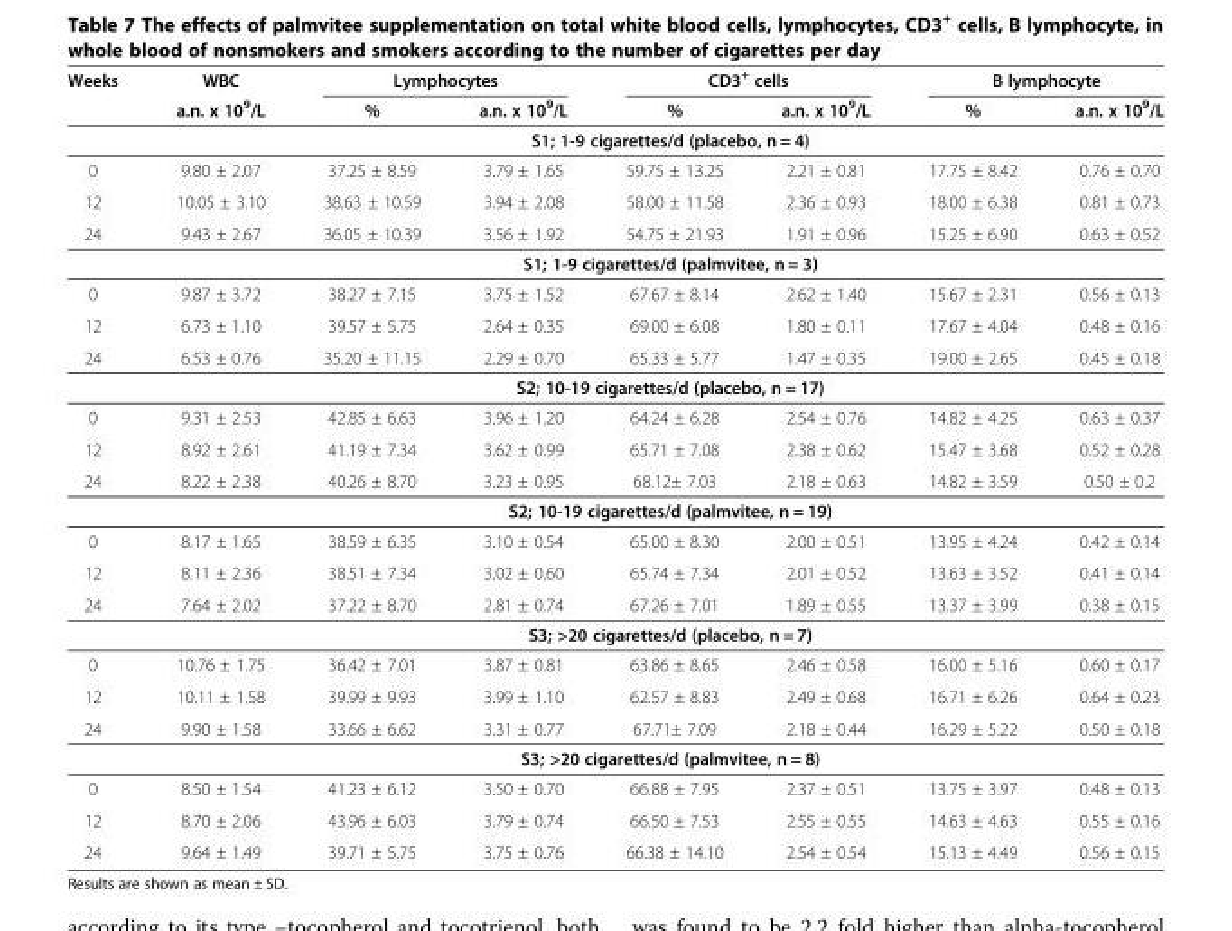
<table><thead><tr><td rowspan="2">Weeks</td><td rowspan="2">WBC a.n. x 10<sup>9</sup>/L</td><td colspan="2">Lymphocytes</td><td colspan="2">CD3<sup>+</sup> cells</td><td colspan="2">B lymphocyte</td></tr><tr><td>%</td><td>a.n. x 10<sup>9</sup>/L</td><td>%</td><td>a.n. x 10<sup>9</sup>/L</td><td>%</td><td>a.n. x 10<sup>9</sup>/L</td></tr></thead><tbody><tr><td></td><td colspan="7">S1; 1-9 cigarettes/d (placebo, n = 4)</td></tr><tr><td>0</td><td>9.80 ± 2.07</td><td>37.25 ± 8.59</td><td>3.79 ± 1.65</td><td>59.75 ± 13.25</td><td>2.21 ± 0.81</td><td>17.75 ± 8.42</td><td>0.76 ± 0.70</td></tr><tr><td>12</td><td>10.05 ± 3.10</td><td>38.63 ± 10.59</td><td>3.94 ± 2.08</td><td>58.00 ± 11.58</td><td>2.36 ± 0.93</td><td>18.00 ± 6.38</td><td>0.81 ± 0.73</td></tr><tr><td rowspan="2">24</td><td>9.43 ± 2.67</td><td>36.05 ± 10.39</td><td>3.56 ± 1.92</td><td>54.75 ± 21.93</td><td>1.91 ± 0.96</td><td>15.25 ± 6.90</td><td>0.63 ± 0.52</td></tr><tr><td colspan="7">S1; 1-9 cigarettes/d (palmvitee, n = 3)</td></tr><tr><td>0</td><td>9.87 ± 3.72</td><td>38.27 ± 7.15</td><td>3.75 ± 1.52</td><td>67.67 ± 8.14</td><td>2.62 ± 1.40</td><td>15.67 ± 2.31</td><td>0.56 ± 0.13</td></tr><tr><td>12</td><td>6.73 ± 1.10</td><td>39.57 ± 5.75</td><td>2.64 ± 0.35</td><td>69.00 ± 6.08</td><td>1.80 ± 0.11</td><td>17.67 ± 4.04</td><td>0.48 ± 0.16</td></tr><tr><td rowspan="2">24</td><td>6.53 ± 0.76</td><td>35.20 ± 11.15</td><td>2.29 ± 0.70</td><td>65.33 ± 5.77</td><td>1.47 ± 0.35</td><td>19.00 ± 2.65</td><td>0.45 ± 0.18</td></tr><tr><td colspan="7">S2; 10-19 cigarettes/d (placebo, n = 17)</td></tr><tr><td>0</td><td>9.31 ± 2.53</td><td>42.85 ± 6.63</td><td>3.96 ± 1.20</td><td>64.24 ± 6.28</td><td>2.54 ± 0.76</td><td>14.82 ± 4.25</td><td>0.63 ± 0.37</td></tr><tr><td>12</td><td>8.92 ± 2.61</td><td>41.19 ± 7.34</td><td>3.62 ± 0.99</td><td>65.71 ± 7.08</td><td>2.38 ± 0.62</td><td>15.47 ± 3.68</td><td>0.52 ± 0.28</td></tr><tr><td rowspan="2">24</td><td>8.22 ± 2.38</td><td>40.26 ± 8.70</td><td>3.23 ± 0.95</td><td>68.12± 7.03</td><td>2.18 ± 0.63</td><td>14.82 ± 3.59</td><td>0.50 ± 0.2</td></tr><tr><td colspan="7">S2; 10-19 cigarettes/d (palmvitee, n = 19)</td></tr><tr><td>0</td><td>8.17 ± 1.65</td><td>38.59 ± 6.35</td><td>3.10 ± 0.54</td><td>65.00 ± 8.30</td><td>2.00 ± 0.51</td><td>13.95 ± 4.24</td><td>0.42 ± 0.14</td></tr><tr><td>12</td><td>8.11 ± 2.36</td><td>38.51 ± 7.34</td><td>3.02 ± 0.60</td><td>65.74 ± 7.34</td><td>2.01 ± 0.52</td><td>13.63 ± 3.52</td><td>0.41 ± 0.14</td></tr><tr><td rowspan="2">24</td><td>7.64 ± 2.02</td><td>37.22 ± 8.70</td><td>2.81 ± 0.74</td><td>67.26 ± 7.01</td><td>1.89 ± 0.55</td><td>13.37 ± 3.99</td><td>0.38 ± 0.15</td></tr><tr><td colspan="7">S3; &gt;20 cigarettes/d (placebo, n = 7)</td></tr><tr><td>0</td><td>10.76 ± 1.75</td><td>36.42 ± 7.01</td><td>3.87 ± 0.81</td><td>63.86 ± 8.65</td><td>2.46 ± 0.58</td><td>16.00 ± 5.16</td><td>0.60 ± 0.17</td></tr><tr><td>12</td><td>10.11 ± 1.58</td><td>39.99 ± 9.93</td><td>3.99 ± 1.10</td><td>62.57 ± 8.83</td><td>2.49 ± 0.68</td><td>16.71 ± 6.26</td><td>0.64 ± 0.23</td></tr><tr><td rowspan="2">24</td><td>9.90 ± 1.58</td><td>33.66 ± 6.62</td><td>3.31 ± 0.77</td><td>67.71± 7.09</td><td>2.18 ± 0.44</td><td>16.29 ± 5.22</td><td>0.50 ± 0.18</td></tr><tr><td colspan="7">S3; &gt;20 cigarettes/d (palmvitee, n = 8)</td></tr><tr><td>0</td><td>8.50 ± 1.54</td><td>41.23 ± 6.12</td><td>3.50 ± 0.70</td><td>66.88 ± 7.95</td><td>2.37 ± 0.51</td><td>13.75 ± 3.97</td><td>0.48 ± 0.13</td></tr><tr><td>12</td><td>8.70 ± 2.06</td><td>43.96 ± 6.03</td><td>3.79 ± 0.74</td><td>66.50 ± 7.53</td><td>2.55 ± 0.55</td><td>14.63 ± 4.63</td><td>0.55 ± 0.16</td></tr><tr><td>24</td><td>9.64 ± 1.49</td><td>39.71 ± 5.75</td><td>3.75 ± 0.76</td><td>66.38 ± 14.10</td><td>2.54 ± 0.54</td><td>15.13 ± 4.49</td><td>0.56 ± 0.15</td></tr></tbody></table>